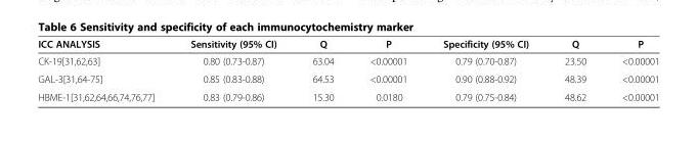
<table><thead><tr><td>ICC ANALYSIS</td><td>Sensitivity (95% CI)</td><td>Q</td><td>P</td><td>Specificity (95% CI)</td><td>Q</td><td>P</td></tr></thead><tbody><tr><td>CK-19[31,62,63]</td><td>0.80 (0.73-0.87)</td><td>63.04</td><td>&lt;0.00001</td><td>0.79 (0.70-0.87)</td><td>23.50</td><td>&lt;0.00001</td></tr><tr><td>GAL-3[31,64-75]</td><td>0.85 (0.83-0.88)</td><td>64.53</td><td>&lt;0.00001</td><td>0.90 (0.88-0.92)</td><td>48.39</td><td>&lt;0.00001</td></tr><tr><td>HBME-1[31,62,64,66,74,76,77]</td><td>0.83 (0.79-0.86)</td><td>15.30</td><td>0.0180</td><td>0.79 (0.75-0.84)</td><td>48.62</td><td>&lt;0.00001</td></tr></tbody></table>